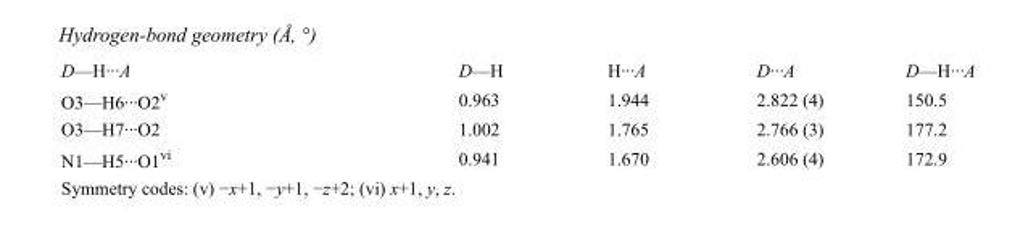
<table><tbody><tr><td>D—H···A</td><td>D—H</td><td>H···A</td><td>D···A</td><td>D—H···A</td></tr><tr><td>O3—H6···O2<sup>v</sup></td><td>0.963</td><td>1.944</td><td>2.822 (4)</td><td>150.5</td></tr><tr><td>O3—H7···O2</td><td>1.002</td><td>1.765</td><td>2.766 (3)</td><td>177.2</td></tr><tr><td>N1—H5···O1<sup>vi</sup></td><td>0.941</td><td>1.670</td><td>2.606 (4)</td><td>172.9</td></tr></tbody></table>